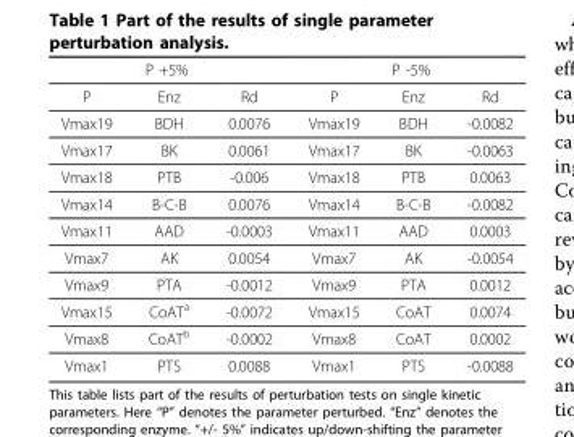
<table><thead><tr><td colspan="3">P +5%</td><td colspan="3">P -5%</td></tr><tr><td>P</td><td>Enz</td><td>Rd</td><td>P</td><td>Enz</td><td>Rd</td></tr></thead><tbody><tr><td>Vmax19</td><td>BDH</td><td>0.0076</td><td>Vmax19</td><td>BDH</td><td>-0.0082</td></tr><tr><td>Vmax17</td><td>BK</td><td>0.0061</td><td>Vmax17</td><td>BK</td><td>-0.0063</td></tr><tr><td>Vmax18</td><td>PTB</td><td>-0.006</td><td>Vmax18</td><td>PTB</td><td>0.0063</td></tr><tr><td>Vmax14</td><td>B-C-B</td><td>0.0076</td><td>Vmax14</td><td>B-C-B</td><td>-0.0082</td></tr><tr><td>Vmax11</td><td>AAD</td><td>-0.0003</td><td>Vmax11</td><td>AAD</td><td>0.0003</td></tr><tr><td>Vmax7</td><td>AK</td><td>0.0054</td><td>Vmax7</td><td>AK</td><td>-0.0054</td></tr><tr><td>Vmax9</td><td>PTA</td><td>-0.0012</td><td>Vmax9</td><td>PTA</td><td>0.0012</td></tr><tr><td>Vmax15</td><td>CoATa</td><td>-0.0072</td><td>Vmax15</td><td>CoAT</td><td>0.0074</td></tr><tr><td>Vmax8</td><td>CoATb</td><td>-0.0002</td><td>Vmax8</td><td>CoAT</td><td>0.0002</td></tr><tr><td>Vmax1</td><td>PTS</td><td>0.0088</td><td>Vmax1</td><td>PTS</td><td>-0.0088</td></tr></tbody></table>